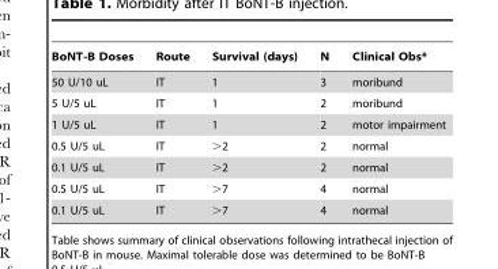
<table><thead><tr><td>BoNT-B Doses</td><td>Route</td><td>Survival (days)</td><td>N</td><td>Clinical Obs*</td></tr></thead><tbody><tr><td>50 U/10 uL</td><td>IT</td><td>1</td><td>3</td><td>moribund</td></tr><tr><td>5 U/5 uL</td><td>IT</td><td>1</td><td>2</td><td>moribund</td></tr><tr><td>1 U/5 uL</td><td>IT</td><td>1</td><td>2</td><td>motor impairment</td></tr><tr><td>0.5 U/5 uL</td><td>IT</td><td>&gt;2</td><td>2</td><td>normal</td></tr><tr><td>0.1 U/5 uL</td><td>IT</td><td>&gt;2</td><td>2</td><td>normal</td></tr><tr><td>0.5 U/5 uL</td><td>IT</td><td>&gt;7</td><td>4</td><td>normal</td></tr><tr><td>0.1 U/5 uL</td><td>IT</td><td>&gt;7</td><td>4</td><td>normal</td></tr></tbody></table>